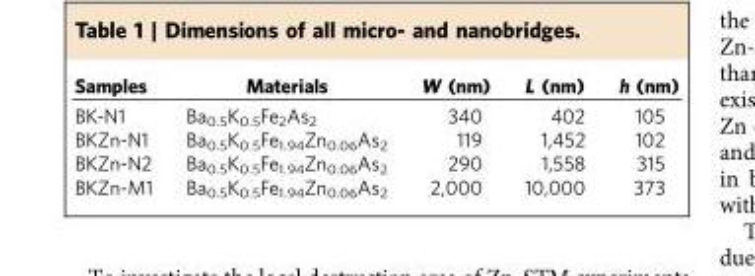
<table><thead><tr><td>Samples</td><td>Materials</td><td>W (nm)</td><td>L (nm)</td><td>h (nm)</td></tr></thead><tbody><tr><td>BK-N1</td><td>Ba<sub>0.5</sub>K<sub>0.5</sub>Fe<sub>2</sub>As<sub>2</sub></td><td>340</td><td>402</td><td>105</td></tr><tr><td>BKZn-N1</td><td>Ba<sub>0.5</sub>K<sub>0.5</sub>Fe<sub>1.94</sub>Zn<sub>0.06</sub>As<sub>2</sub></td><td>119</td><td>1,452</td><td>102</td></tr><tr><td>BKZn-N2</td><td>Ba<sub>0.5</sub>K<sub>0.5</sub>Fe<sub>1.94</sub>Zn<sub>0.06</sub>As<sub>2</sub></td><td>290</td><td>1,558</td><td>315</td></tr><tr><td>BKZn-M1</td><td>Ba<sub>0.5</sub>K<sub>0.5</sub>Fe<sub>1.94</sub>Zn<sub>0.06</sub>As<sub>2</sub></td><td>2,000</td><td>10,000</td><td>373</td></tr></tbody></table>